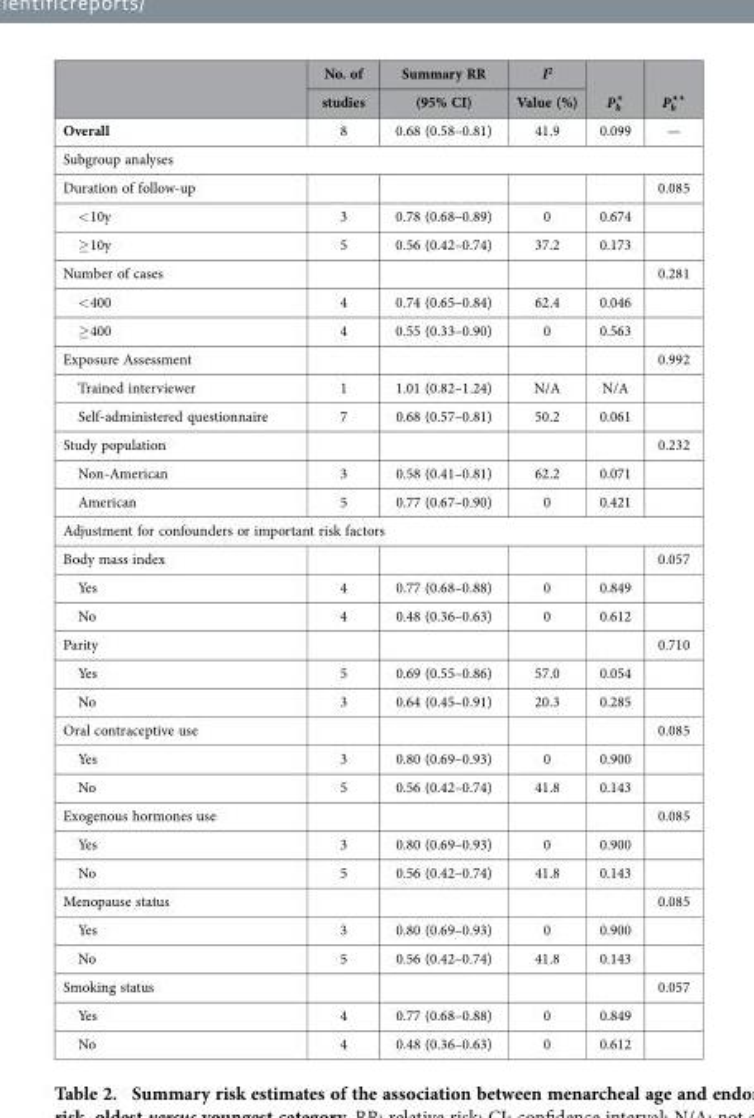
<table><thead><tr><td rowspan="2"></td><td rowspan="2">No. of studies</td><td rowspan="2">Summary RR (95% CI)</td><td rowspan="2">I<sup>2</sup> Value (%)</td><td rowspan="2">P*h</td><td rowspan="2">P** h</td></tr><tr></tr></thead><tbody><tr><td>Overall</td><td>8</td><td>0.68 (0.58–0.81)</td><td>41.9</td><td>0.099</td><td>—</td></tr><tr><td colspan="6">Subgroup analyses</td></tr><tr><td>Duration of follow-up</td><td></td><td></td><td></td><td></td><td>0.085</td></tr><tr><td>&lt; 10y</td><td>3</td><td>0.78 (0.68–0.89)</td><td>0</td><td>0.674</td><td></td></tr><tr><td>≥ 10y</td><td>5</td><td>0.56 (0.42–0.74)</td><td>37.2</td><td>0.173</td><td></td></tr><tr><td>Number of cases</td><td></td><td></td><td></td><td></td><td>0.281</td></tr><tr><td>&lt; 400</td><td>4</td><td>0.74 (0.65–0.84)</td><td>62.4</td><td>0.046</td><td></td></tr><tr><td>≥ 400</td><td>4</td><td>0.55 (0.33–0.90)</td><td>0</td><td>0.563</td><td></td></tr><tr><td>Exposure Assessment</td><td></td><td></td><td></td><td></td><td>0.992</td></tr><tr><td>Trained interviewer</td><td>1</td><td>1.01 (0.82–1.24)</td><td>N/A</td><td>N/A</td><td></td></tr><tr><td>Self-administered questionnaire</td><td>7</td><td>0.68 (0.57–0.81)</td><td>50.2</td><td>0.061</td><td></td></tr><tr><td>Study population</td><td></td><td></td><td></td><td></td><td>0.232</td></tr><tr><td>Non-American</td><td>3</td><td>0.58 (0.41–0.81)</td><td>62.2</td><td>0.071</td><td></td></tr><tr><td>American</td><td>5</td><td>0.77 (0.67–0.90)</td><td>0</td><td>0.421</td><td></td></tr><tr><td colspan="6">Adjustment for confounders or important risk factors</td></tr><tr><td>Body mass index</td><td></td><td></td><td></td><td></td><td>0.057</td></tr><tr><td>Yes</td><td>4</td><td>0.77 (0.68–0.88)</td><td>0</td><td>0.849</td><td></td></tr><tr><td>No</td><td>4</td><td>0.48 (0.36–0.63)</td><td>0</td><td>0.612</td><td></td></tr><tr><td>Parity</td><td></td><td></td><td></td><td></td><td>0.710</td></tr><tr><td>Yes</td><td>5</td><td>0.69 (0.55–0.86)</td><td>57.0</td><td>0.054</td><td></td></tr><tr><td>No</td><td>3</td><td>0.64 (0.45–0.91)</td><td>20.3</td><td>0.285</td><td></td></tr><tr><td>Oral contraceptive use</td><td></td><td></td><td></td><td></td><td>0.085</td></tr><tr><td>Yes</td><td>3</td><td>0.80 (0.69–0.93)</td><td>0</td><td>0.900</td><td></td></tr><tr><td>No</td><td>5</td><td>0.56 (0.42–0.74)</td><td>41.8</td><td>0.143</td><td></td></tr><tr><td>Exogenous hormones use</td><td></td><td></td><td></td><td></td><td>0.085</td></tr><tr><td>Yes</td><td>3</td><td>0.80 (0.69–0.93)</td><td>0</td><td>0.900</td><td></td></tr><tr><td>No</td><td>5</td><td>0.56 (0.42–0.74)</td><td>41.8</td><td>0.143</td><td></td></tr><tr><td>Menopause status</td><td></td><td></td><td></td><td></td><td>0.085</td></tr><tr><td>Yes</td><td>3</td><td>0.80 (0.69–0.93)</td><td>0</td><td>0.900</td><td></td></tr><tr><td>No</td><td>5</td><td>0.56 (0.42–0.74)</td><td>41.8</td><td>0.143</td><td></td></tr><tr><td>Smoking status</td><td></td><td></td><td></td><td></td><td>0.057</td></tr><tr><td>Yes</td><td>4</td><td>0.77 (0.68–0.88)</td><td>0</td><td>0.849</td><td></td></tr><tr><td>No</td><td>4</td><td>0.48 (0.36–0.63)</td><td>0</td><td>0.612</td><td></td></tr></tbody></table>